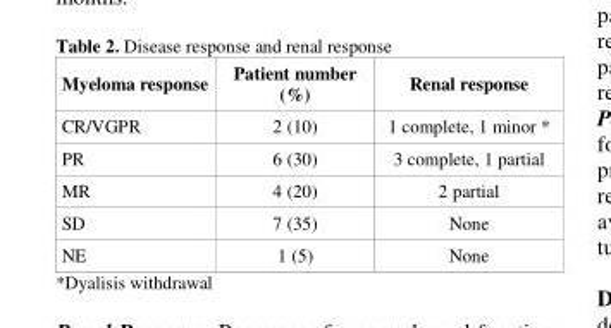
<table><thead><tr><td>Myeloma response</td><td>Patient number (%)</td><td>Renal response</td></tr></thead><tbody><tr><td>CR/VGPR</td><td>2 (10)</td><td>1 complete, 1 minor *</td></tr><tr><td>PR</td><td>6 (30)</td><td>3 complete, 1 partial</td></tr><tr><td>MR</td><td>4 (20)</td><td>2 partial</td></tr><tr><td>SD</td><td>7 (35)</td><td>None</td></tr><tr><td>NE</td><td>1 (5)</td><td>None</td></tr></tbody></table>